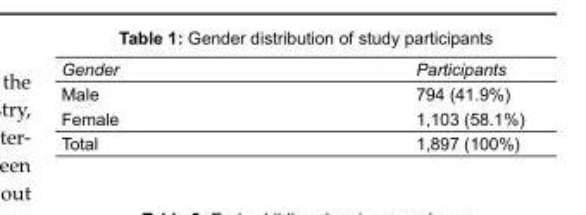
<table><tbody><tr><td>Gender</td><td>Participants</td></tr><tr><td>Male</td><td>794 (41.9%)</td></tr><tr><td>Female</td><td>1,103 (58.1%)</td></tr><tr><td>Total</td><td>1,897 (100%)</td></tr></tbody></table>